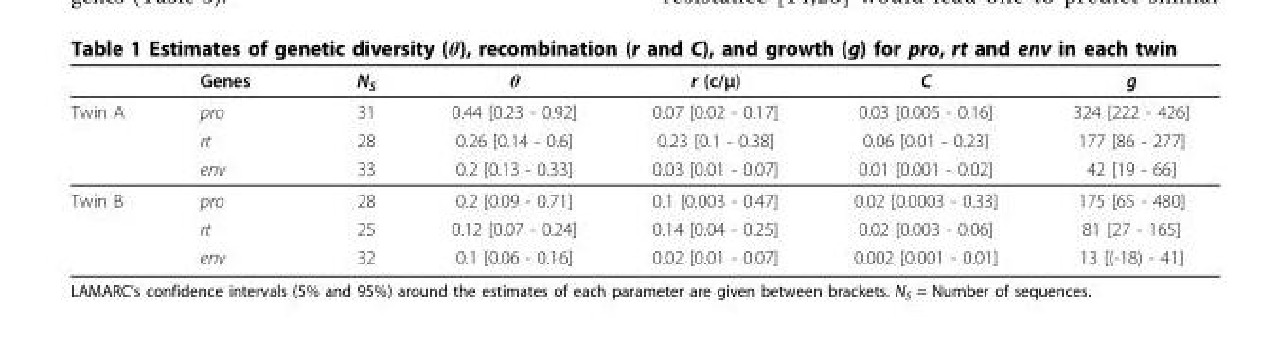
<table><thead><tr><td></td><td>Genes</td><td>N<sub>S</sub></td><td>θ</td><td>r (c/μ)</td><td>C</td><td>g</td></tr></thead><tbody><tr><td rowspan="3">Twin A</td><td>pro</td><td>31</td><td>0.44 [0.23 - 0.92]</td><td>0.07 [0.02 - 0.17]</td><td>0.03 [0.005 - 0.16]</td><td>324 [222 - 426]</td></tr><tr><td>rt</td><td>28</td><td>0.26 [0.14 - 0.6]</td><td>0.23 [0.1 - 0.38]</td><td>0.06 [0.01 - 0.23]</td><td>177 [86 - 277]</td></tr><tr><td>env</td><td>33</td><td>0.2 [0.13 - 0.33]</td><td>0.03 [0.01 - 0.07]</td><td>0.01 [0.001 - 0.02]</td><td>42 [19 - 66]</td></tr><tr><td rowspan="3">Twin B</td><td>pro</td><td>28</td><td>0.2 [0.09 - 0.71]</td><td>0.1 [0.003 - 0.47]</td><td>0.02 [0.0003 - 0.33]</td><td>175 [65 - 480]</td></tr><tr><td>rt</td><td>25</td><td>0.12 [0.07 - 0.24]</td><td>0.14 [0.04 - 0.25]</td><td>0.02 [0.003 - 0.06]</td><td>81 [27 - 165]</td></tr><tr><td>env</td><td>32</td><td>0.1 [0.06 - 0.16]</td><td>0.02 [0.01 - 0.07]</td><td>0.002 [0.001 - 0.01]</td><td>13 [(-18) - 41]</td></tr></tbody></table>